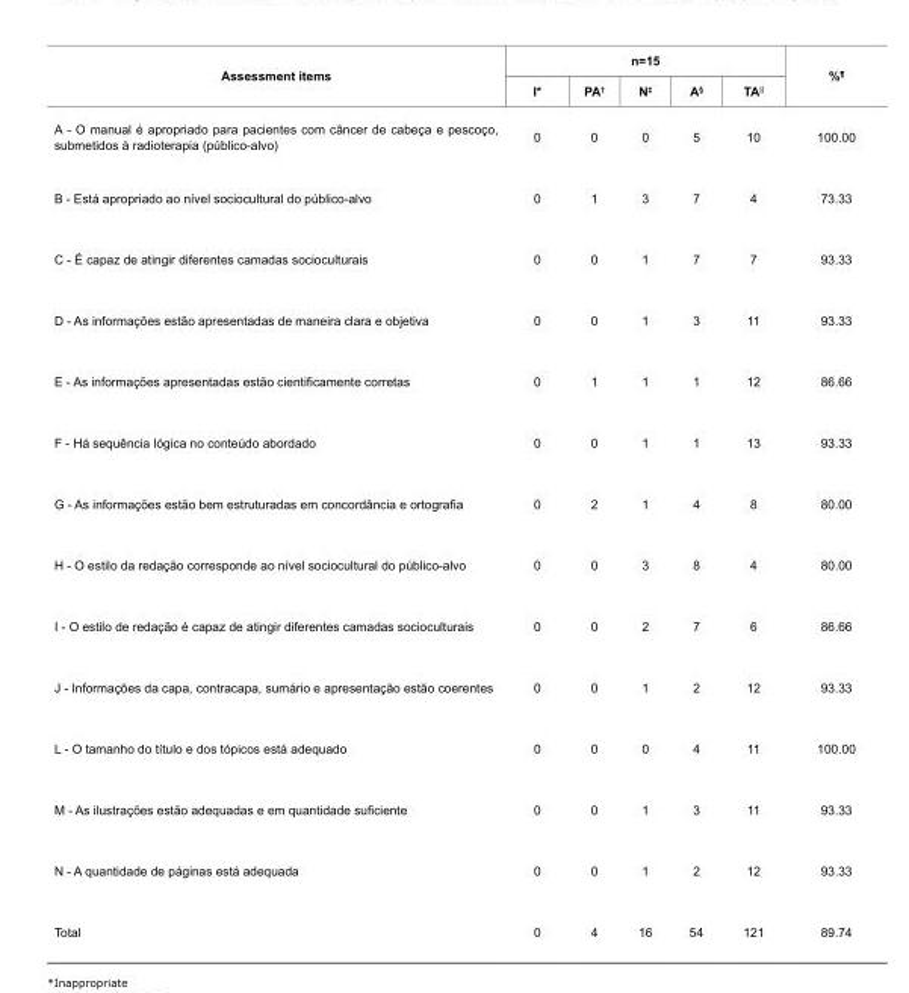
<table><tbody><tr><td rowspan="2">Assessment items</td><td colspan="4">n=15</td><td colspan="2">%<sup>¶</sup></td></tr><tr><td>I*</td><td>PA<sup>†</sup></td><td>N<sup>‡</sup></td><td>A<sup>§</sup></td><td>TA<sup>||</sup></td><td></td></tr><tr><td>A - O manual é apropriado para pacientes com câncer de cabeça e pescoço, submetidos à radioterapia (público-alvo)</td><td>0</td><td>0</td><td>0</td><td>5</td><td>10</td><td>100.00</td></tr><tr><td>B - Está apropriado ao nível sociocultural do público-alvo</td><td>0</td><td>1</td><td>3</td><td>7</td><td>4</td><td>73.33</td></tr><tr><td>C - É capaz de atingir diferentes camadas socioculturais</td><td>0</td><td>0</td><td>1</td><td>7</td><td>7</td><td>93.33</td></tr><tr><td>D - As informações estão apresentadas de maneira clara e objetiva</td><td>0</td><td>0</td><td>1</td><td>3</td><td>11</td><td>93.33</td></tr><tr><td>E - As informações apresentadas estão cientificamente corretas</td><td>0</td><td>1</td><td>1</td><td>1</td><td>12</td><td>86.66</td></tr><tr><td>F - Há sequência lógica no conteúdo abordado</td><td>0</td><td>0</td><td>1</td><td>1</td><td>13</td><td>93.33</td></tr><tr><td>G - As informações estão bem estruturadas em concordância e ortografia</td><td>0</td><td>2</td><td>1</td><td>4</td><td>8</td><td>80.00</td></tr><tr><td>H - O estilo da redação corresponde ao nível sociocultural do público-alvo</td><td>0</td><td>0</td><td>3</td><td>8</td><td>4</td><td>80.00</td></tr><tr><td>I - O estilo de redação é capaz de atingir diferentes camadas socioculturais</td><td>0</td><td>0</td><td>2</td><td>7</td><td>6</td><td>86.66</td></tr><tr><td>J - Informações da capa, contracapa, sumário e apresentação estão coerentes</td><td>0</td><td>0</td><td>1</td><td>2</td><td>12</td><td>93.33</td></tr><tr><td>L - O tamanho do título e dos tópicos está adequado</td><td>0</td><td>0</td><td>0</td><td>4</td><td>11</td><td>100.00</td></tr><tr><td>M - As ilustrações estão adequadas e em quantidade suficiente</td><td>0</td><td>0</td><td>1</td><td>3</td><td>11</td><td>93.33</td></tr><tr><td>N - A quantidade de páginas está adequada</td><td>0</td><td>0</td><td>1</td><td>2</td><td>12</td><td>93.33</td></tr><tr><td>Total</td><td>0</td><td>4</td><td>16</td><td>54</td><td>121</td><td>89.74</td></tr></tbody></table>